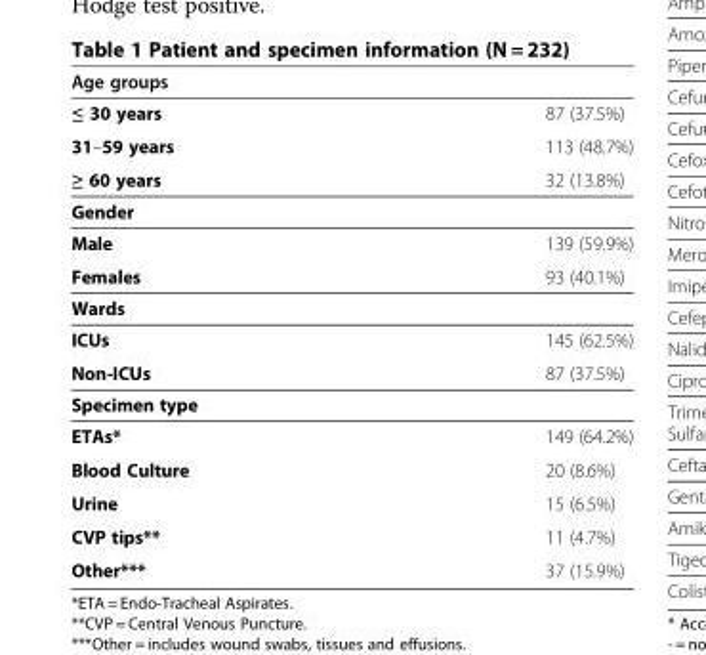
<table><thead><tr><td colspan="2">Age groups</td></tr><tr><td>≤ 30 years</td><td>87 (37.5%)</td></tr></thead><tbody><tr><td>31–59 years</td><td>113 (48.7%)</td></tr><tr><td>≥ 60 years</td><td>32 (13.8%)</td></tr><tr><td colspan="2">Gender</td></tr><tr><td>Male</td><td>139 (59.9%)</td></tr><tr><td>Females</td><td>93 (40.1%)</td></tr><tr><td colspan="2">Wards</td></tr><tr><td>ICUs</td><td>145 (62.5%)</td></tr><tr><td>Non-ICUs</td><td>87 (37.5%)</td></tr><tr><td colspan="2">Specimen type</td></tr><tr><td>ETAs*</td><td>149 (64.2%)</td></tr><tr><td>Blood Culture</td><td>20 (8.6%)</td></tr><tr><td>Urine</td><td>15 (6.5%)</td></tr><tr><td>CVP tips**</td><td>11 (4.7%)</td></tr><tr><td>Other***</td><td>37 (15.9%)</td></tr></tbody></table>